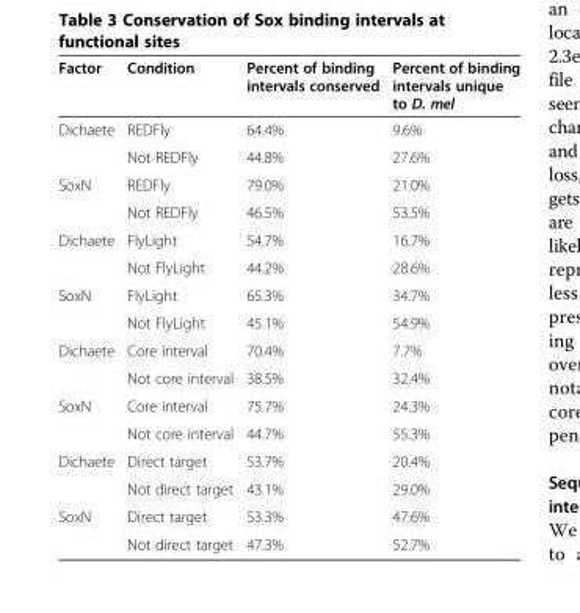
<table><thead><tr><td>Factor</td><td>Condition</td><td>Percent of binding intervals conserved</td><td>Percent of binding intervals unique to D. mel</td></tr></thead><tbody><tr><td rowspan="2">Dichaete</td><td>REDFly</td><td>64.4%</td><td>9.6%</td></tr><tr><td>Not REDFly</td><td>44.8%</td><td>27.6%</td></tr><tr><td rowspan="2">SoxN</td><td>REDFly</td><td>79.0%</td><td>21.0%</td></tr><tr><td>Not REDFly</td><td>46.5%</td><td>53.5%</td></tr><tr><td rowspan="2">Dichaete</td><td>FlyLight</td><td>54.7%</td><td>16.7%</td></tr><tr><td>Not FlyLight</td><td>44.2%</td><td>28.6%</td></tr><tr><td rowspan="2">SoxN</td><td>FlyLight</td><td>65.3%</td><td>34.7%</td></tr><tr><td>Not FlyLight</td><td>45.1%</td><td>54.9%</td></tr><tr><td rowspan="2">Dichaete</td><td>Core interval</td><td>70.4%</td><td>7.7%</td></tr><tr><td>Not core interval</td><td>38.5%</td><td>32.4%</td></tr><tr><td rowspan="2">SoxN</td><td>Core interval</td><td>75.7%</td><td>24.3%</td></tr><tr><td>Not core interval</td><td>44.7%</td><td>55.3%</td></tr><tr><td rowspan="2">Dichaete</td><td>Direct target</td><td>53.7%</td><td>20.4%</td></tr><tr><td>Not direct target</td><td>43.1%</td><td>29.0%</td></tr><tr><td rowspan="2">SoxN</td><td>Direct target</td><td>53.3%</td><td>47.6%</td></tr><tr><td>Not direct target</td><td>47.3%</td><td>52.7%</td></tr></tbody></table>